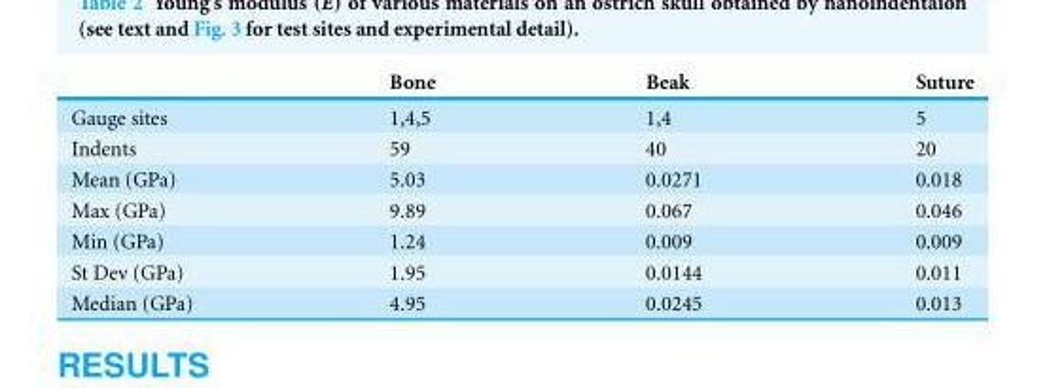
<table><thead><tr><td></td><td>Bone</td><td>Beak</td><td>Suture</td></tr></thead><tbody><tr><td>Gauge sites</td><td>1,4,5</td><td>1,4</td><td>5</td></tr><tr><td>Indents</td><td>59</td><td>40</td><td>20</td></tr><tr><td>Mean (GPa)</td><td>5.03</td><td>0.0271</td><td>0.018</td></tr><tr><td>Max (GPa)</td><td>9.89</td><td>0.067</td><td>0.046</td></tr><tr><td>Min (GPa)</td><td>1.24</td><td>0.009</td><td>0.009</td></tr><tr><td>St Dev (GPa)</td><td>1.95</td><td>0.0144</td><td>0.011</td></tr><tr><td>Median (GPa)</td><td>4.95</td><td>0.0245</td><td>0.013</td></tr></tbody></table>